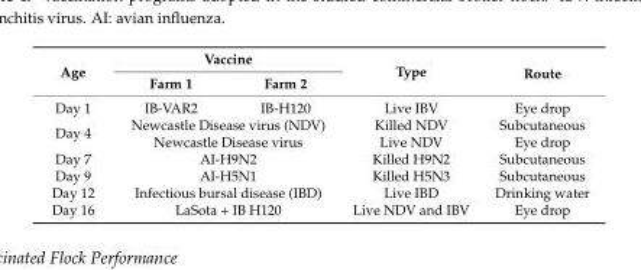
<table><thead><tr><td rowspan="2">Age</td><td colspan="2">Vaccine</td><td rowspan="2">Type</td><td rowspan="2">Route</td></tr><tr><td>Farm 1</td><td>Farm 2</td></tr></thead><tbody><tr><td>Day 1</td><td>IB-VAR2</td><td>IB-H120</td><td>Live IBV</td><td>Eye drop</td></tr><tr><td rowspan="2">Day 4</td><td colspan="2">Newcastle Disease virus (NDV)</td><td>Killed NDV</td><td>Subcutaneous</td></tr><tr><td colspan="2">Newcastle Disease virus</td><td>Live NDV</td><td>Eye drop</td></tr><tr><td>Day 7</td><td colspan="2">AI-H9N2</td><td>Killed H9N2</td><td>Subcutaneous</td></tr><tr><td>Day 9</td><td colspan="2">AI-H5N1</td><td>Killed H5N3</td><td>Subcutaneous</td></tr><tr><td>Day 12</td><td colspan="2">Infectious bursal disease (IBD)</td><td>Live IBD</td><td>Drinking water</td></tr><tr><td>Day 16</td><td colspan="2">LaSota + IB H120</td><td>Live NDV and IBV</td><td>Eye drop</td></tr></tbody></table>